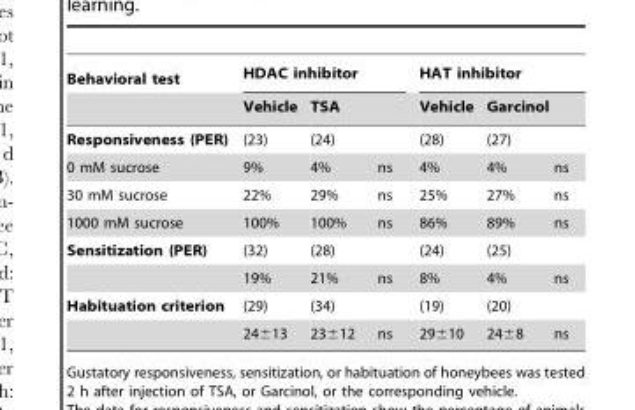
<table><thead><tr><td rowspan="2">Behavioral test</td><td colspan="3">HDAC inhibitor</td><td colspan="3">HAT inhibitor</td></tr><tr><td>Vehicle</td><td>TSA</td><td></td><td>Vehicle</td><td>Garcinol</td><td></td></tr></thead><tbody><tr><td>Responsiveness (PER)</td><td>(23)</td><td>(24)</td><td></td><td>(28)</td><td>(27)</td><td></td></tr><tr><td>0 mM sucrose</td><td>9%</td><td>4%</td><td>ns</td><td>4%</td><td>4%</td><td>ns</td></tr><tr><td>30 mM sucrose</td><td>22%</td><td>29%</td><td>ns</td><td>25%</td><td>27%</td><td>ns</td></tr><tr><td>1000 mM sucrose</td><td>100%</td><td>100%</td><td>ns</td><td>86%</td><td>89%</td><td>ns</td></tr><tr><td rowspan="2">Sensitization (PER)</td><td>(32)</td><td>(28)</td><td></td><td>(24)</td><td>(25)</td><td></td></tr><tr><td>19%</td><td>21%</td><td>ns</td><td>8%</td><td>4%</td><td>ns</td></tr><tr><td rowspan="2">Habituation criterion</td><td>(29)</td><td>(34)</td><td></td><td>(19)</td><td>(20)</td><td></td></tr><tr><td>24±13</td><td>23±12</td><td>ns</td><td>29±10</td><td>24±8</td><td>ns</td></tr></tbody></table>